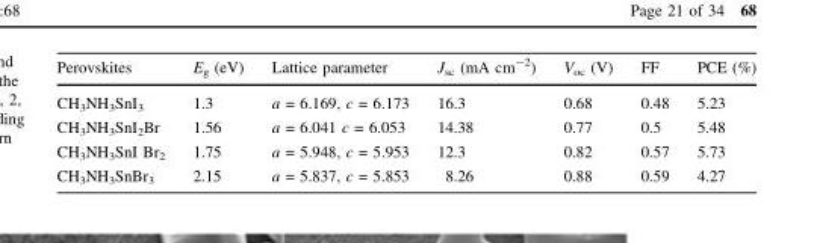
<table><thead><tr><td>Perovskites</td><td>E<sub>g</sub> (eV)</td><td>Lattice parameter</td><td>J<sub>sc</sub> (mA cm<sup>-2</sup>)</td><td>V<sub>oc</sub> (V)</td><td>FF</td><td>PCE (%)</td></tr></thead><tbody><tr><td>CH<sub>3</sub>NH<sub>3</sub>SnI<sub>3</sub></td><td>1.3</td><td>a = 6.169, c = 6.173</td><td>16.3</td><td>0.68</td><td>0.48</td><td>5.23</td></tr><tr><td>CH<sub>3</sub>NH<sub>3</sub>SnI<sub>2</sub>Br</td><td>1.56</td><td>a = 6.041 c = 6.053</td><td>14.38</td><td>0.77</td><td>0.5</td><td>5.48</td></tr><tr><td>CH<sub>3</sub>NH<sub>3</sub>SnI Br<sub>2</sub></td><td>1.75</td><td>a = 5.948, c = 5.953</td><td>12.3</td><td>0.82</td><td>0.57</td><td>5.73</td></tr><tr><td>CH<sub>3</sub>NH<sub>3</sub>SnBr<sub>3</sub></td><td>2.15</td><td>a = 5.837, c = 5.853</td><td>8.26</td><td>0.88</td><td>0.59</td><td>4.27</td></tr></tbody></table>